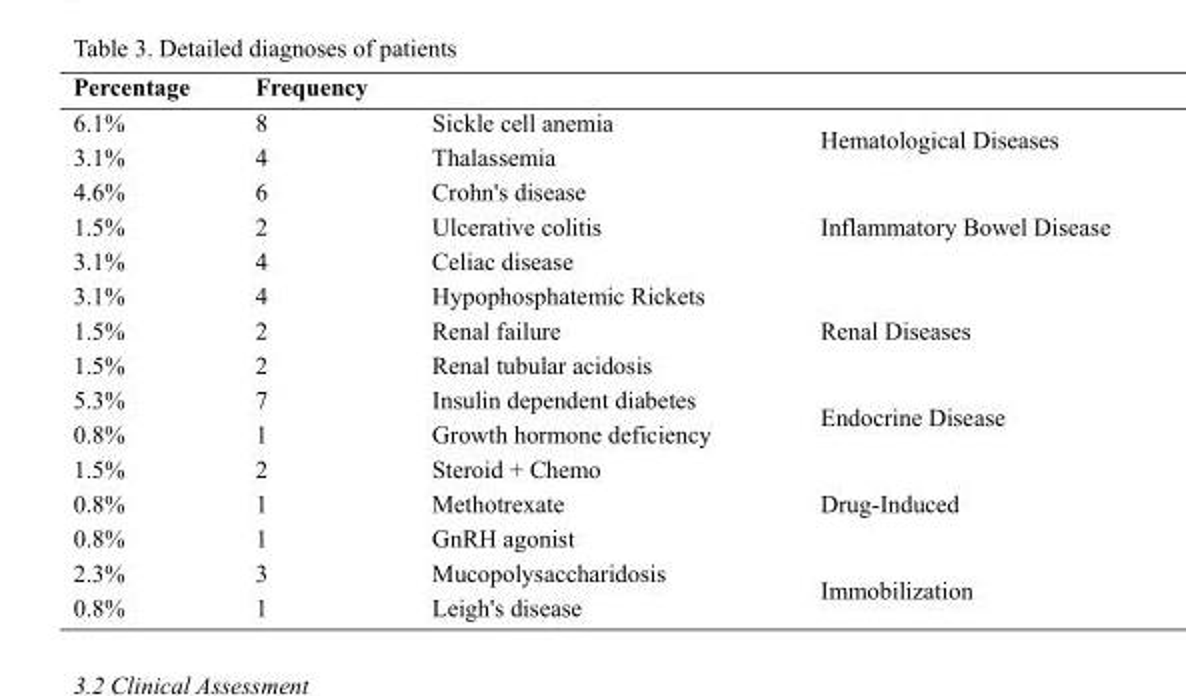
<table><thead><tr><td>Percentage</td><td>Frequency</td><td></td><td></td></tr></thead><tbody><tr><td>6.1%</td><td>8</td><td>Sickle cell anemia</td><td rowspan="2">Hematological Diseases</td></tr><tr><td>3.1%</td><td>4</td><td>Thalassemia</td></tr><tr><td>4.6%</td><td>6</td><td>Crohn&#x27;s disease</td><td rowspan="3">Inflammatory Bowel Disease</td></tr><tr><td>1.5%</td><td>2</td><td>Ulcerative colitis</td></tr><tr><td>3.1%</td><td>4</td><td>Celiac disease</td></tr><tr><td>3.1%</td><td>4</td><td>Hypophosphatemic Rickets</td><td rowspan="3">Renal Diseases</td></tr><tr><td>1.5%</td><td>2</td><td>Renal failure</td></tr><tr><td>1.5%</td><td>2</td><td>Renal tubular acidosis</td></tr><tr><td>5.3%</td><td>7</td><td>Insulin dependent diabetes</td><td rowspan="2">Endocrine Disease</td></tr><tr><td>0.8%</td><td>1</td><td>Growth hormone deficiency</td></tr><tr><td>1.5%</td><td>2</td><td>Steroid + Chemo</td><td rowspan="3">Drug-Induced</td></tr><tr><td>0.8%</td><td>1</td><td>Methotrexate</td></tr><tr><td>0.8%</td><td>1</td><td>GnRH agonist</td></tr><tr><td>2.3%</td><td>3</td><td>Mucopolysaccharidosis</td><td rowspan="2">Immobilization</td></tr><tr><td>0.8%</td><td>1</td><td>Leigh&#x27;s disease</td></tr></tbody></table>